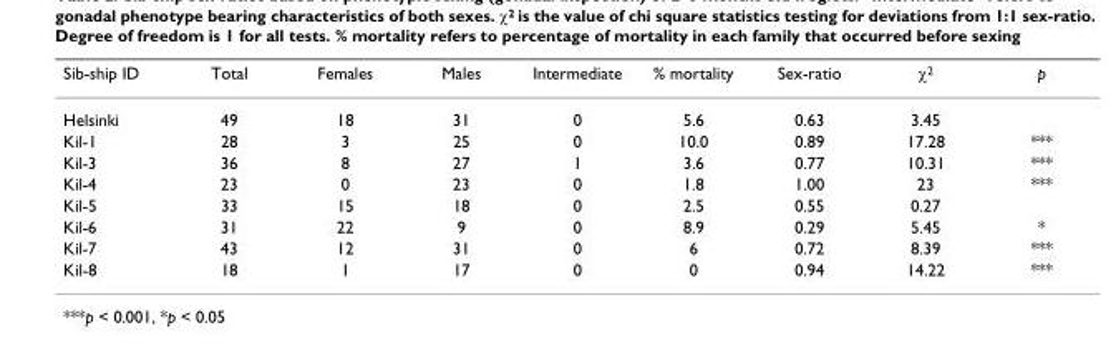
<table><thead><tr><td>Sib-ship ID</td><td>Total</td><td>Females</td><td>Males</td><td>Intermediate</td><td>% mortality</td><td>Sex-ratio</td><td>χ<sup>2</sup></td><td>p</td></tr></thead><tbody><tr><td>Helsinki</td><td>49</td><td>18</td><td>31</td><td>0</td><td>5.6</td><td>0.63</td><td>3.45</td><td></td></tr><tr><td>Kil-1</td><td>28</td><td>3</td><td>25</td><td>0</td><td>10.0</td><td>0.89</td><td>17.28</td><td>***</td></tr><tr><td>Kil-3</td><td>36</td><td>8</td><td>27</td><td>1</td><td>3.6</td><td>0.77</td><td>10.31</td><td>***</td></tr><tr><td>Kil-4</td><td>23</td><td>0</td><td>23</td><td>0</td><td>1.8</td><td>1.00</td><td>23</td><td>***</td></tr><tr><td>Kil-5</td><td>33</td><td>15</td><td>18</td><td>0</td><td>2.5</td><td>0.55</td><td>0.27</td><td></td></tr><tr><td>Kil-6</td><td>31</td><td>22</td><td>9</td><td>0</td><td>8.9</td><td>0.29</td><td>5.45</td><td>*</td></tr><tr><td>Kil-7</td><td>43</td><td>12</td><td>31</td><td>0</td><td>6</td><td>0.72</td><td>8.39</td><td>***</td></tr><tr><td>Kil-8</td><td>18</td><td>1</td><td>17</td><td>0</td><td>0</td><td>0.94</td><td>14.22</td><td>***</td></tr></tbody></table>